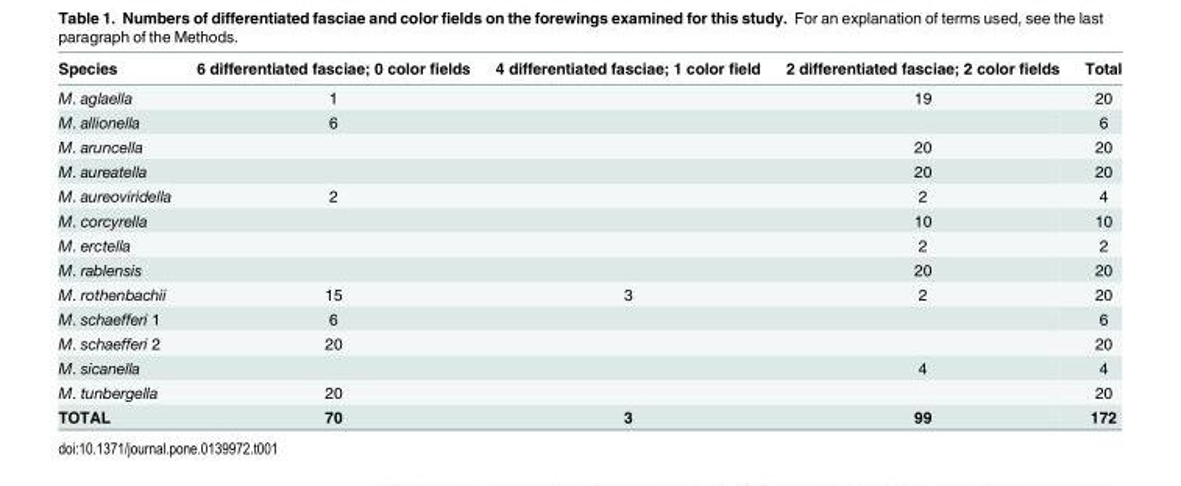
<table><thead><tr><td>Species</td><td>6 differentiated fasciae; 0 color fields</td><td>4 differentiated fasciae; 1 color field</td><td>2 differentiated fasciae; 2 color fields</td><td>Total</td></tr></thead><tbody><tr><td>M. aglaella</td><td>1</td><td></td><td>19</td><td>20</td></tr><tr><td>M. allionella</td><td>6</td><td></td><td></td><td>6</td></tr><tr><td>M. aruncella</td><td></td><td></td><td>20</td><td>20</td></tr><tr><td>M. aureatella</td><td></td><td></td><td>20</td><td>20</td></tr><tr><td>M. aureoviridella</td><td>2</td><td></td><td>2</td><td>4</td></tr><tr><td>M. corcyrella</td><td></td><td></td><td>10</td><td>10</td></tr><tr><td>M. erctella</td><td></td><td></td><td>2</td><td>2</td></tr><tr><td>M. rablensis</td><td></td><td></td><td>20</td><td>20</td></tr><tr><td>M. rothenbachii</td><td>15</td><td>3</td><td>2</td><td>20</td></tr><tr><td>M. schaefferi 1</td><td>6</td><td></td><td></td><td>6</td></tr><tr><td>M. schaefferi 2</td><td>20</td><td></td><td></td><td>20</td></tr><tr><td>M. sicanella</td><td></td><td></td><td>4</td><td>4</td></tr><tr><td>M. tunbergella</td><td>20</td><td></td><td></td><td>20</td></tr><tr><td>TOTAL</td><td>70</td><td>3</td><td>99</td><td>172</td></tr></tbody></table>